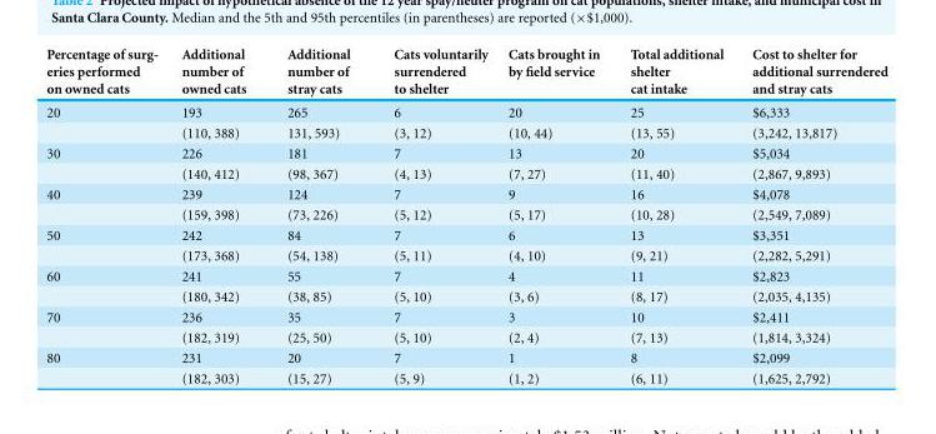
<table><thead><tr><td>Percentage of surg- eries performed on owned cats</td><td>Additional number of owned cats</td><td>Additional number of stray cats</td><td>Cats voluntarily surrendered to shelter</td><td>Cats brought in by field service</td><td>Total additional shelter cat intake</td><td>Cost to shelter for additional surrendered and stray cats</td></tr></thead><tbody><tr><td rowspan="2">20</td><td>193</td><td>265</td><td>6</td><td>20</td><td>25</td><td>$6,333</td></tr><tr><td>(110, 388)</td><td>131, 593)</td><td>(3, 12)</td><td>(10, 44)</td><td>(13, 55)</td><td>(3,242, 13,817)</td></tr><tr><td rowspan="2">30</td><td>226</td><td>181</td><td>7</td><td>13</td><td>20</td><td>$5,034</td></tr><tr><td>(140, 412)</td><td>(98, 367)</td><td>(4, 13)</td><td>(7, 27)</td><td>(11, 40)</td><td>(2,867, 9,893)</td></tr><tr><td rowspan="2">40</td><td>239</td><td>124</td><td>7</td><td>9</td><td>16</td><td>$4,078</td></tr><tr><td>(159, 398)</td><td>(73, 226)</td><td>(5, 12)</td><td>(5, 17)</td><td>(10, 28)</td><td>(2,549, 7,089)</td></tr><tr><td rowspan="2">50</td><td>242</td><td>84</td><td>7</td><td>6</td><td>13</td><td>$3,351</td></tr><tr><td>(173, 368)</td><td>(54, 138)</td><td>(5, 11)</td><td>(4, 10)</td><td>(9, 21)</td><td>(2,282, 5,291)</td></tr><tr><td rowspan="2">60</td><td>241</td><td>55</td><td>7</td><td>4</td><td>11</td><td>$2,823</td></tr><tr><td>(180, 342)</td><td>(38, 85)</td><td>(5, 10)</td><td>(3, 6)</td><td>(8, 17)</td><td>(2,035, 4,135)</td></tr><tr><td rowspan="2">70</td><td>236</td><td>35</td><td>7</td><td>3</td><td>10</td><td>$2,411</td></tr><tr><td>(182, 319)</td><td>(25, 50)</td><td>(5, 10)</td><td>(2, 4)</td><td>(7, 13)</td><td>(1,814, 3,324)</td></tr><tr><td rowspan="2">80</td><td>231</td><td>20</td><td>7</td><td>1</td><td>8</td><td>$2,099</td></tr><tr><td>(182, 303)</td><td>(15, 27)</td><td>(5, 9)</td><td>(1, 2)</td><td>(6, 11)</td><td>(1,625, 2,792)</td></tr></tbody></table>